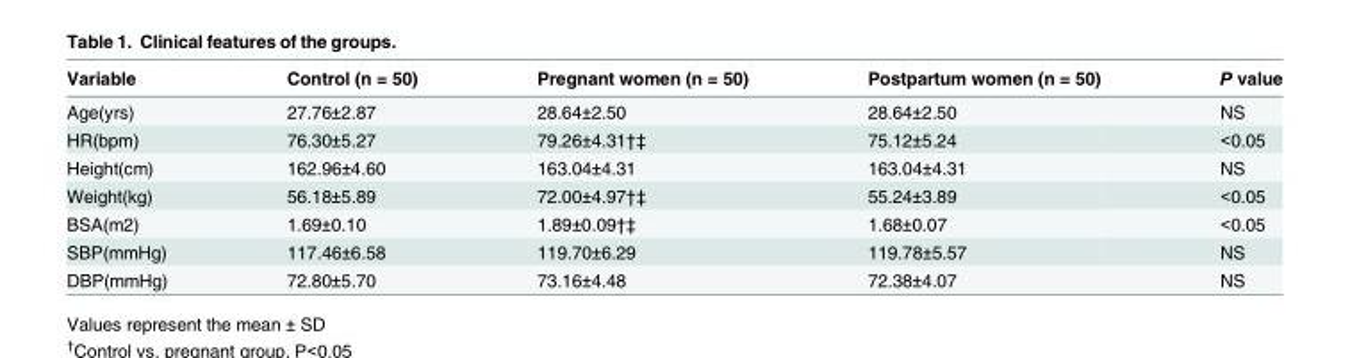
<table><thead><tr><td>Variable</td><td>Control (n = 50)</td><td>Pregnant women (n = 50)</td><td>Postpartum women (n = 50)</td><td>P value</td></tr></thead><tbody><tr><td>Age(yrs)</td><td>27.76±2.87</td><td>28.64±2.50</td><td>28.64±2.50</td><td>NS</td></tr><tr><td>HR(bpm)</td><td>76.30±5.27</td><td>79.26±4.31†‡</td><td>75.12±5.24</td><td>&lt;0.05</td></tr><tr><td>Height(cm)</td><td>162.96±4.60</td><td>163.04±4.31</td><td>163.04±4.31</td><td>NS</td></tr><tr><td>Weight(kg)</td><td>56.18±5.89</td><td>72.00±4.97†‡</td><td>55.24±3.89</td><td>&lt;0.05</td></tr><tr><td>BSA(m2)</td><td>1.69±0.10</td><td>1.89±0.09†‡</td><td>1.68±0.07</td><td>&lt;0.05</td></tr><tr><td>SBP(mmHg)</td><td>117.46±6.58</td><td>119.70±6.29</td><td>119.78±5.57</td><td>NS</td></tr><tr><td>DBP(mmHg)</td><td>72.80±5.70</td><td>73.16±4.48</td><td>72.38±4.07</td><td>NS</td></tr></tbody></table>